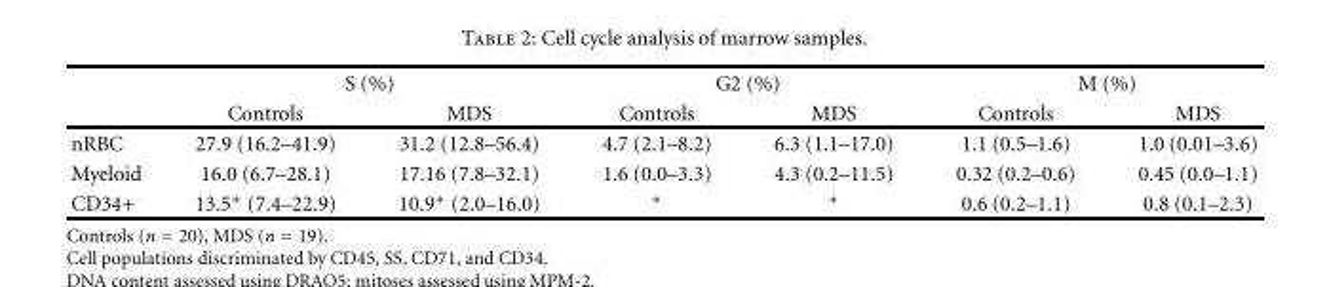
<table><thead><tr><td rowspan="2"></td><td colspan="2">S (%)</td><td colspan="2">G2 (%)</td><td colspan="2">M (%)</td></tr><tr><td>Controls</td><td>MDS</td><td>Controls</td><td>MDS</td><td>Controls</td><td>MDS</td></tr></thead><tbody><tr><td>nRBC</td><td>27.9 (16.2–41.9)</td><td>31.2 (12.8–56.4)</td><td>4.7 (2.1–8.2)</td><td>6.3 (1.1–17.0)</td><td>1.1 (0.5–1.6)</td><td>1.0 (0.01–3.6)</td></tr><tr><td>Myeloid</td><td>16.0 (6.7–28.1)</td><td>17.16 (7.8–32.1)</td><td>1.6 (0.0–3.3)</td><td>4.3 (0.2–11.5)</td><td>0.32 (0.2–0.6)</td><td>0.45 (0.0–1.1)</td></tr><tr><td>CD34+</td><td>13.5∗ (7.4–22.9)</td><td>10.9∗ (2.0–16.0)</td><td>∗</td><td>∗</td><td>0.6 (0.2–1.1)</td><td>0.8 (0.1–2.3)</td></tr></tbody></table>